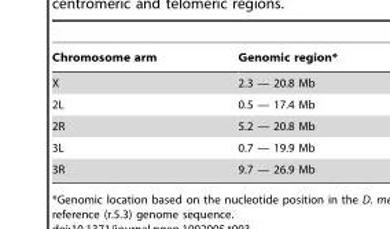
<table><thead><tr><td>Chromosome arm</td><td>Genomic region*</td></tr></thead><tbody><tr><td>X</td><td>2.3 — 20.8 Mb</td></tr><tr><td>2L</td><td>0.5 — 17.4 Mb</td></tr><tr><td>2R</td><td>5.2 — 20.8 Mb</td></tr><tr><td>3L</td><td>0.7 — 19.9 Mb</td></tr><tr><td>3R</td><td>9.7 — 26.9 Mb</td></tr></tbody></table>